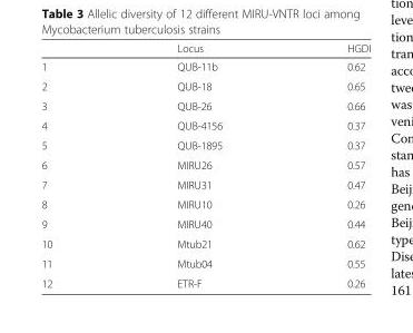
<table><thead><tr><td></td><td>Locus</td><td>HGDI</td></tr></thead><tbody><tr><td>1</td><td>QUB-11b</td><td>0.62</td></tr><tr><td>2</td><td>QUB-18</td><td>0.65</td></tr><tr><td>3</td><td>QUB-26</td><td>0.66</td></tr><tr><td>4</td><td>QUB-4156</td><td>0.37</td></tr><tr><td>5</td><td>QUB-1895</td><td>0.37</td></tr><tr><td>6</td><td>MIRU26</td><td>0.57</td></tr><tr><td>7</td><td>MIRU31</td><td>0.47</td></tr><tr><td>8</td><td>MIRU10</td><td>0.26</td></tr><tr><td>9</td><td>MIRU40</td><td>0.44</td></tr><tr><td>10</td><td>Mtub21</td><td>0.62</td></tr><tr><td>11</td><td>Mtub04</td><td>0.55</td></tr><tr><td>12</td><td>ETR-F</td><td>0.26</td></tr></tbody></table>